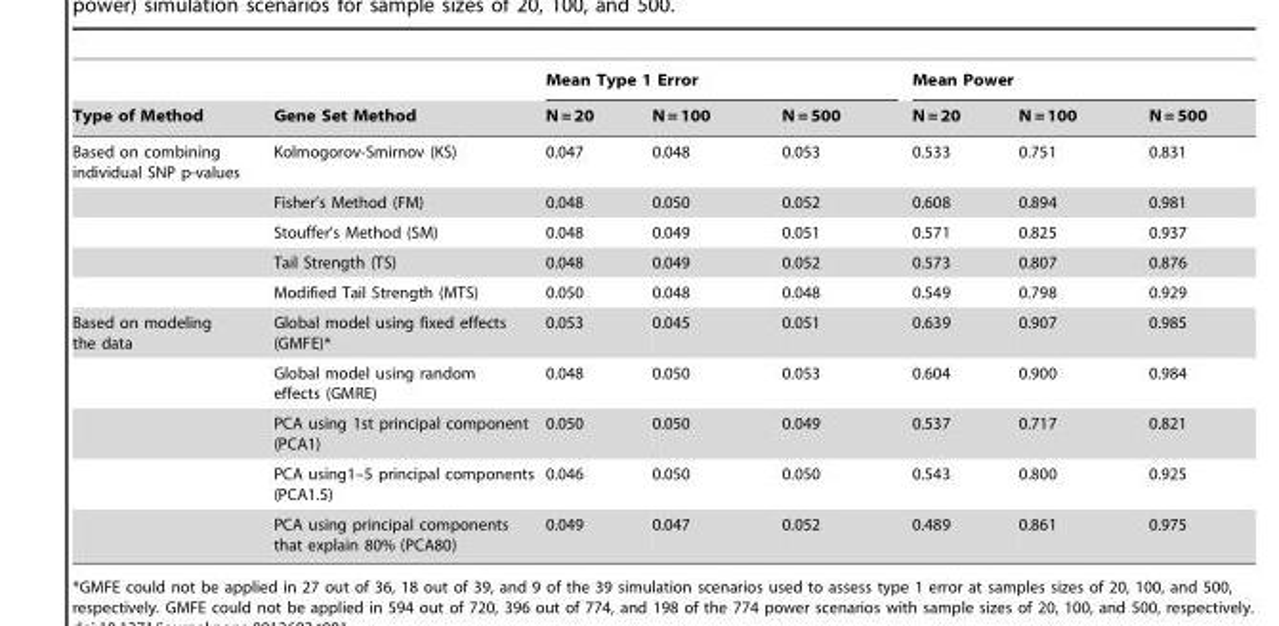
<table><thead><tr><td rowspan="2">Type of Method</td><td rowspan="2">Gene Set Method</td><td colspan="3">Mean Type 1 Error</td><td colspan="3">Mean Power</td></tr><tr><td>N = 20</td><td>N = 100</td><td>N = 500</td><td>N = 20</td><td>N = 100</td><td>N = 500</td></tr></thead><tbody><tr><td rowspan="5">Based on combining individual SNP p-values</td><td>Kolmogorov-Smirnov (KS)</td><td>0.047</td><td>0.048</td><td>0.053</td><td>0.533</td><td>0.751</td><td>0.831</td></tr><tr><td>Fisher’s Method (FM)</td><td>0.048</td><td>0.050</td><td>0.052</td><td>0.608</td><td>0.894</td><td>0.981</td></tr><tr><td>Stouffer’s Method (SM)</td><td>0.048</td><td>0.049</td><td>0.051</td><td>0.571</td><td>0.825</td><td>0.937</td></tr><tr><td>Tail Strength (TS)</td><td>0.048</td><td>0.049</td><td>0.052</td><td>0.573</td><td>0.807</td><td>0.876</td></tr><tr><td>Modified Tail Strength (MTS)</td><td>0.050</td><td>0.048</td><td>0.048</td><td>0.549</td><td>0.798</td><td>0.929</td></tr><tr><td rowspan="5">Based on modeling the data</td><td>Global model using fixed effects (GMFE)*</td><td>0.053</td><td>0.045</td><td>0.051</td><td>0.639</td><td>0.907</td><td>0.985</td></tr><tr><td>Global model using random effects (GMRE)</td><td>0.048</td><td>0.050</td><td>0.053</td><td>0.604</td><td>0.900</td><td>0.984</td></tr><tr><td>PCA using 1st principal component (PCA1)</td><td>0.050</td><td>0.050</td><td>0.049</td><td>0.537</td><td>0.717</td><td>0.821</td></tr><tr><td>PCA using1–5 principal components (PCA1.5)</td><td>0.046</td><td>0.050</td><td>0.050</td><td>0.543</td><td>0.800</td><td>0.925</td></tr><tr><td>PCA using principal components that explain 80% (PCA80)</td><td>0.049</td><td>0.047</td><td>0.052</td><td>0.489</td><td>0.861</td><td>0.975</td></tr></tbody></table>